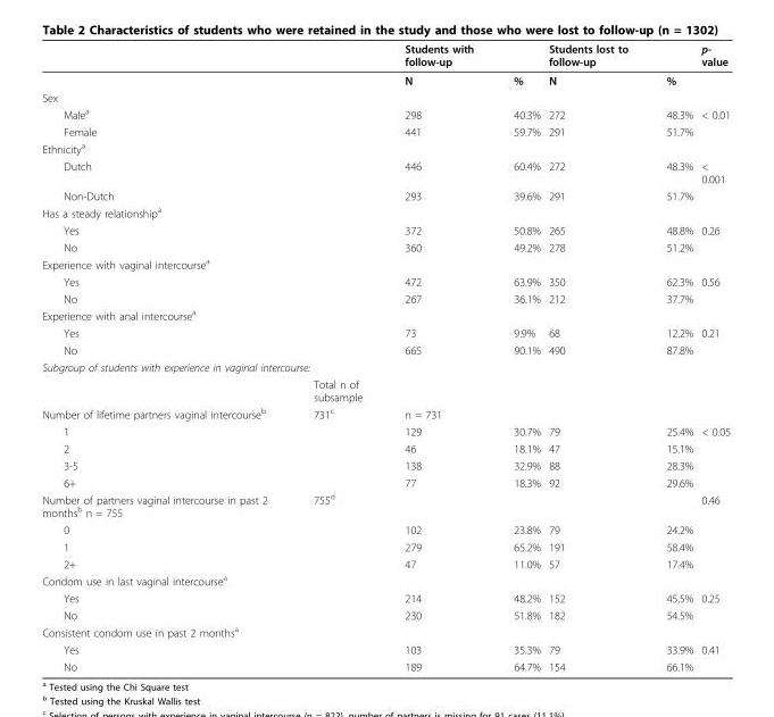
<table><thead><tr><td></td><td></td><td>Students with follow-up</td><td></td><td>Students lost to follow-up</td><td></td><td>p- value</td></tr></thead><tbody><tr><td></td><td></td><td>N</td><td>%</td><td>N</td><td>%</td><td></td></tr><tr><td colspan="7">Sex</td></tr><tr><td>Male<sup>a</sup></td><td></td><td>298</td><td>40.3%</td><td>272</td><td>48.3%</td><td>&lt; 0.01</td></tr><tr><td>Female</td><td></td><td>441</td><td>59.7%</td><td>291</td><td>51.7%</td><td></td></tr><tr><td colspan="7">Ethnicity<sup>a</sup></td></tr><tr><td>Dutch</td><td></td><td>446</td><td>60.4%</td><td>272</td><td>48.3%</td><td>&lt; 0.001</td></tr><tr><td>Non-Dutch</td><td></td><td>293</td><td>39.6%</td><td>291</td><td>51.7%</td><td></td></tr><tr><td colspan="7">Has a steady relationship<sup>a</sup></td></tr><tr><td>Yes</td><td></td><td>372</td><td>50.8%</td><td>265</td><td>48.8%</td><td>0.26</td></tr><tr><td>No</td><td></td><td>360</td><td>49.2%</td><td>278</td><td>51.2%</td><td></td></tr><tr><td colspan="7">Experience with vaginal intercourse<sup>a</sup></td></tr><tr><td>Yes</td><td></td><td>472</td><td>63.9%</td><td>350</td><td>62.3%</td><td>0.56</td></tr><tr><td>No</td><td></td><td>267</td><td>36.1%</td><td>212</td><td>37.7%</td><td></td></tr><tr><td colspan="7">Experience with anal intercourse<sup>a</sup></td></tr><tr><td>Yes</td><td></td><td>73</td><td>9.9%</td><td>68</td><td>12.2%</td><td>0.21</td></tr><tr><td>No</td><td></td><td>665</td><td>90.1%</td><td>490</td><td>87.8%</td><td></td></tr><tr><td colspan="7">Subgroup of students with experience in vaginal intercourse:</td></tr><tr><td></td><td>Total n of subsample</td><td></td><td></td><td></td><td></td><td></td></tr><tr><td>Number of lifetime partners vaginal intercourse<sup>b</sup></td><td>731<sup>c</sup></td><td>n = 731</td><td></td><td></td><td></td><td></td></tr><tr><td>1</td><td></td><td>129</td><td>30.7%</td><td>79</td><td>25.4%</td><td>&lt; 0.05</td></tr><tr><td>2</td><td></td><td>46</td><td>18.1%</td><td>47</td><td>15.1%</td><td></td></tr><tr><td>3-5</td><td></td><td>138</td><td>32.9%</td><td>88</td><td>28.3%</td><td></td></tr><tr><td>6+</td><td></td><td>77</td><td>18.3%</td><td>92</td><td>29.6%</td><td></td></tr><tr><td>Number of partners vaginal intercourse in past 2 months<sup>b</sup> n = 755</td><td>755<sup>d</sup></td><td></td><td></td><td></td><td></td><td>0.46</td></tr><tr><td>0</td><td></td><td>102</td><td>23.8%</td><td>79</td><td>24.2%</td><td></td></tr><tr><td>1</td><td></td><td>279</td><td>65.2%</td><td>191</td><td>58.4%</td><td></td></tr><tr><td>2+</td><td></td><td>47</td><td>11.0%</td><td>57</td><td>17.4%</td><td></td></tr><tr><td colspan="7">Condom use in last vaginal intercourse<sup>a</sup></td></tr><tr><td>Yes</td><td></td><td>214</td><td>48.2%</td><td>152</td><td>45.5%</td><td>0.25</td></tr><tr><td>No</td><td></td><td>230</td><td>51.8%</td><td>182</td><td>54.5%</td><td></td></tr><tr><td colspan="7">Consistent condom use in past 2 months<sup>a</sup></td></tr><tr><td>Yes</td><td></td><td>103</td><td>35.3%</td><td>79</td><td>33.9%</td><td>0.41</td></tr><tr><td>No</td><td></td><td>189</td><td>64.7%</td><td>154</td><td>66.1%</td><td></td></tr></tbody></table>